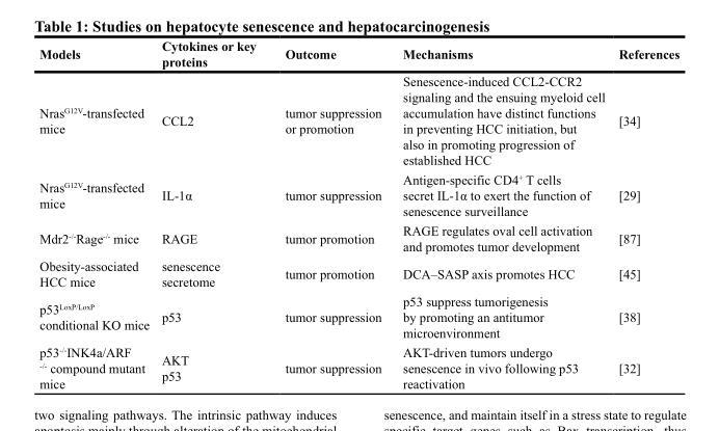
<table><thead><tr><td>Models</td><td>Cytokines or key proteins</td><td>Outcome</td><td>Mechanisms</td><td>References</td></tr></thead><tbody><tr><td>Nras<sup>G12V</sup>-transfected mice</td><td>CCL2</td><td>tumor suppression or promotion</td><td>Senescence-induced CCL2-CCR2 signaling and the ensuing myeloid cell accumulation have distinct functions in preventing HCC initiation, but also in promoting progression of established HCC</td><td>[34]</td></tr><tr><td>Nras<sup>G12V</sup>-transfected mice</td><td>IL-1α</td><td>tumor suppression</td><td>Antigen-specific CD4<sup>+</sup> T cells secret IL-1α to exert the function of senescence surveillance</td><td>[29]</td></tr><tr><td>Mdr2<sup>-/-</sup>Rage<sup>-/-</sup> mice</td><td>RAGE</td><td>tumor promotion</td><td>RAGE regulates oval cell activation and promotes tumor development</td><td>[87]</td></tr><tr><td>Obesity-associated HCC mice</td><td>senescence secretome</td><td>tumor promotion</td><td>DCA–SASP axis promotes HCC</td><td>[45]</td></tr><tr><td>p53<sup>LoxP/LoxP</sup> conditional KO mice</td><td>p53</td><td>tumor suppression</td><td>p53 suppress tumorigenesis by promoting an antitumor microenvironment</td><td>[38]</td></tr><tr><td>p53<sup>-/-</sup>INK4a/ARF <sup>-/-</sup> compound mutant mice</td><td>AKT p53</td><td>tumor suppression</td><td>AKT-driven tumors undergo senescence in vivo following p53 reactivation</td><td>[32]</td></tr></tbody></table>